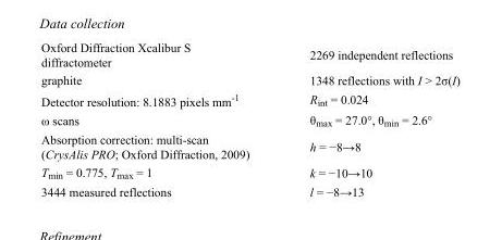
<table><tbody><tr><td>Oxford Diffraction Xcalibur S diffractometer</td><td>2269 independent reflections</td></tr><tr><td>graphite</td><td>1348 reflections with I &gt; 2σ(I)</td></tr><tr><td>Detector resolution: 8.1883 pixels mm<sup>-1</sup></td><td>R<sub>int</sub> = 0.024</td></tr><tr><td>ω scans</td><td>θ<sub>max</sub> = 27.0°, θ<sub>min</sub> = 2.6°</td></tr><tr><td>Absorption correction: multi-scan (CrysAlis PRO; Oxford Diffraction, 2009)</td><td>h = −8→8</td></tr><tr><td>T<sub>min</sub> = 0.775, T<sub>max</sub> = 1</td><td>k = −10→10</td></tr><tr><td>3444 measured reflections</td><td>l = −8→13</td></tr></tbody></table>